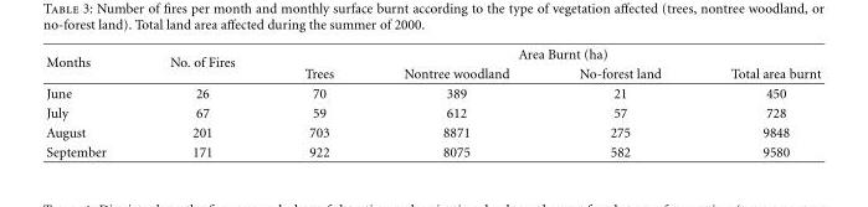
<table><thead><tr><td rowspan="2">Months</td><td rowspan="2">No. of Fires</td><td colspan="4">Area Burnt (ha)</td></tr><tr><td>Trees</td><td>Nontree woodland</td><td>No-forest land</td><td>Total area burnt</td></tr></thead><tbody><tr><td>June</td><td>26</td><td>70</td><td>389</td><td>21</td><td>450</td></tr><tr><td>July</td><td>67</td><td>59</td><td>612</td><td>57</td><td>728</td></tr><tr><td>August</td><td>201</td><td>703</td><td>8871</td><td>275</td><td>9848</td></tr><tr><td>September</td><td>171</td><td>922</td><td>8075</td><td>582</td><td>9580</td></tr></tbody></table>